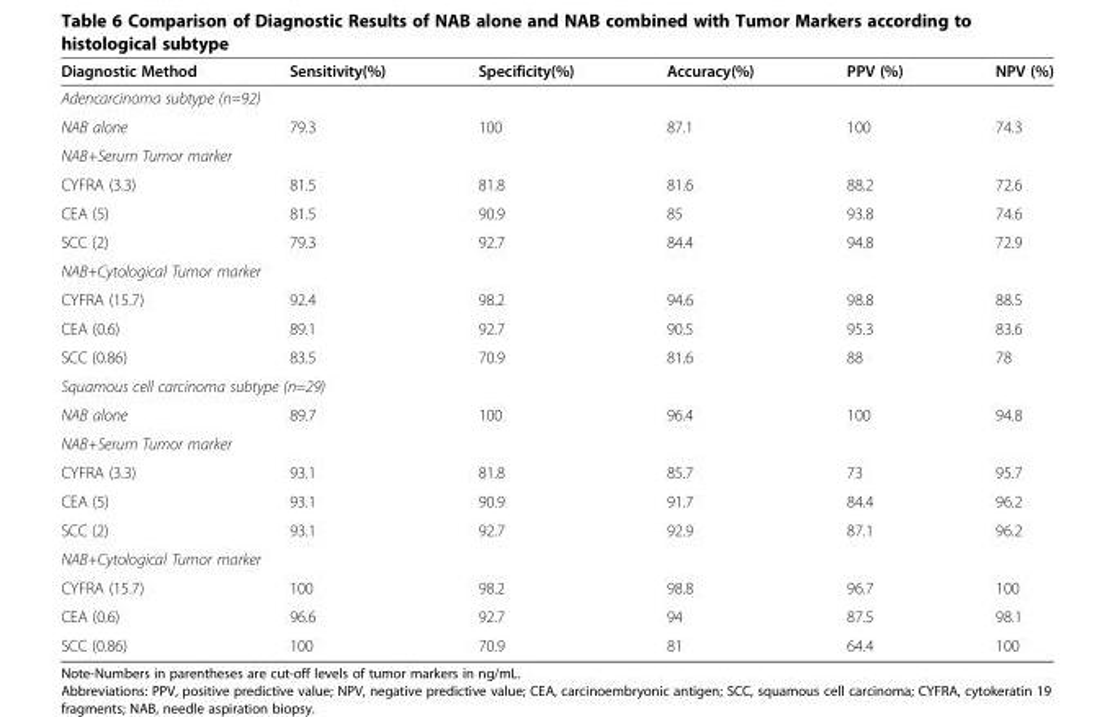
<table><thead><tr><td>Diagnostic Method</td><td>Sensitivity(%)</td><td>Specificity(%)</td><td>Accuracy(%)</td><td>PPV (%)</td><td>NPV (%)</td></tr></thead><tbody><tr><td colspan="6">Adencarcinoma subtype (n=92)</td></tr><tr><td>NAB alone</td><td>79.3</td><td>100</td><td>87.1</td><td>100</td><td>74.3</td></tr><tr><td colspan="6">NAB+Serum Tumor marker</td></tr><tr><td>CYFRA (3.3)</td><td>81.5</td><td>81.8</td><td>81.6</td><td>88.2</td><td>72.6</td></tr><tr><td>CEA (5)</td><td>81.5</td><td>90.9</td><td>85</td><td>93.8</td><td>74.6</td></tr><tr><td>SCC (2)</td><td>79.3</td><td>92.7</td><td>84.4</td><td>94.8</td><td>72.9</td></tr><tr><td colspan="6">NAB+Cytological Tumor marker</td></tr><tr><td>CYFRA (15.7)</td><td>92.4</td><td>98.2</td><td>94.6</td><td>98.8</td><td>88.5</td></tr><tr><td>CEA (0.6)</td><td>89.1</td><td>92.7</td><td>90.5</td><td>95.3</td><td>83.6</td></tr><tr><td>SCC (0.86)</td><td>83.5</td><td>70.9</td><td>81.6</td><td>88</td><td>78</td></tr><tr><td colspan="6">Squamous cell carcinoma subtype (n=29)</td></tr><tr><td>NAB alone</td><td>89.7</td><td>100</td><td>96.4</td><td>100</td><td>94.8</td></tr><tr><td colspan="6">NAB+Serum Tumor marker</td></tr><tr><td>CYFRA (3.3)</td><td>93.1</td><td>81.8</td><td>85.7</td><td>73</td><td>95.7</td></tr><tr><td>CEA (5)</td><td>93.1</td><td>90.9</td><td>91.7</td><td>84.4</td><td>96.2</td></tr><tr><td>SCC (2)</td><td>93.1</td><td>92.7</td><td>92.9</td><td>87.1</td><td>96.2</td></tr><tr><td colspan="6">NAB+Cytological Tumor marker</td></tr><tr><td>CYFRA (15.7)</td><td>100</td><td>98.2</td><td>98.8</td><td>96.7</td><td>100</td></tr><tr><td>CEA (0.6)</td><td>96.6</td><td>92.7</td><td>94</td><td>87.5</td><td>98.1</td></tr><tr><td>SCC (0.86)</td><td>100</td><td>70.9</td><td>81</td><td>64.4</td><td>100</td></tr></tbody></table>